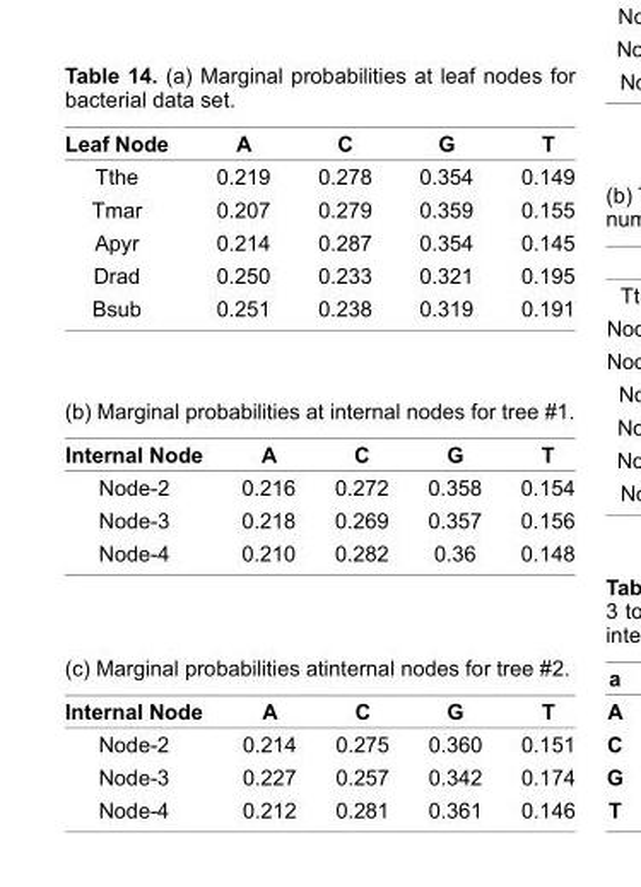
<table><tbody><tr><td colspan="5">Table 14. (a) Marginal probabilities at leaf nodes for bacterial data set.</td></tr><tr><td>Leaf Node</td><td>A</td><td>C</td><td>G</td><td>T</td></tr><tr><td>Tthe</td><td>0.219</td><td>0.278</td><td>0.354</td><td>0.149</td></tr><tr><td>Tmar</td><td>0.207</td><td>0.279</td><td>0.359</td><td>0.155</td></tr><tr><td>Apyr</td><td>0.214</td><td>0.287</td><td>0.354</td><td>0.145</td></tr><tr><td>Drad</td><td>0.250</td><td>0.233</td><td>0.321</td><td>0.195</td></tr><tr><td>Bsub</td><td>0.251</td><td>0.238</td><td>0.319</td><td>0.191</td></tr><tr><td colspan="5">(b) Marginal probabilities at internal nodes for tree #1.</td></tr><tr><td>Internal Node</td><td>A</td><td>C</td><td>G</td><td>T</td></tr><tr><td>Node-2</td><td>0.216</td><td>0.272</td><td>0.358</td><td>0.154</td></tr><tr><td>Node-3</td><td>0.218</td><td>0.269</td><td>0.357</td><td>0.156</td></tr><tr><td>Node-4</td><td>0.210</td><td>0.282</td><td>0.36</td><td>0.148</td></tr><tr><td colspan="5">(c) Marginal probabilities atinternal nodes for tree #2.</td></tr><tr><td>Internal Node</td><td>A</td><td>C</td><td>G</td><td>T</td></tr><tr><td>Node-2</td><td>0.214</td><td>0.275</td><td>0.360</td><td>0.151</td></tr><tr><td>Node-3</td><td>0.227</td><td>0.257</td><td>0.342</td><td>0.174</td></tr><tr><td>Node-4</td><td>0.212</td><td>0.281</td><td>0.361</td><td>0.146</td></tr></tbody></table>